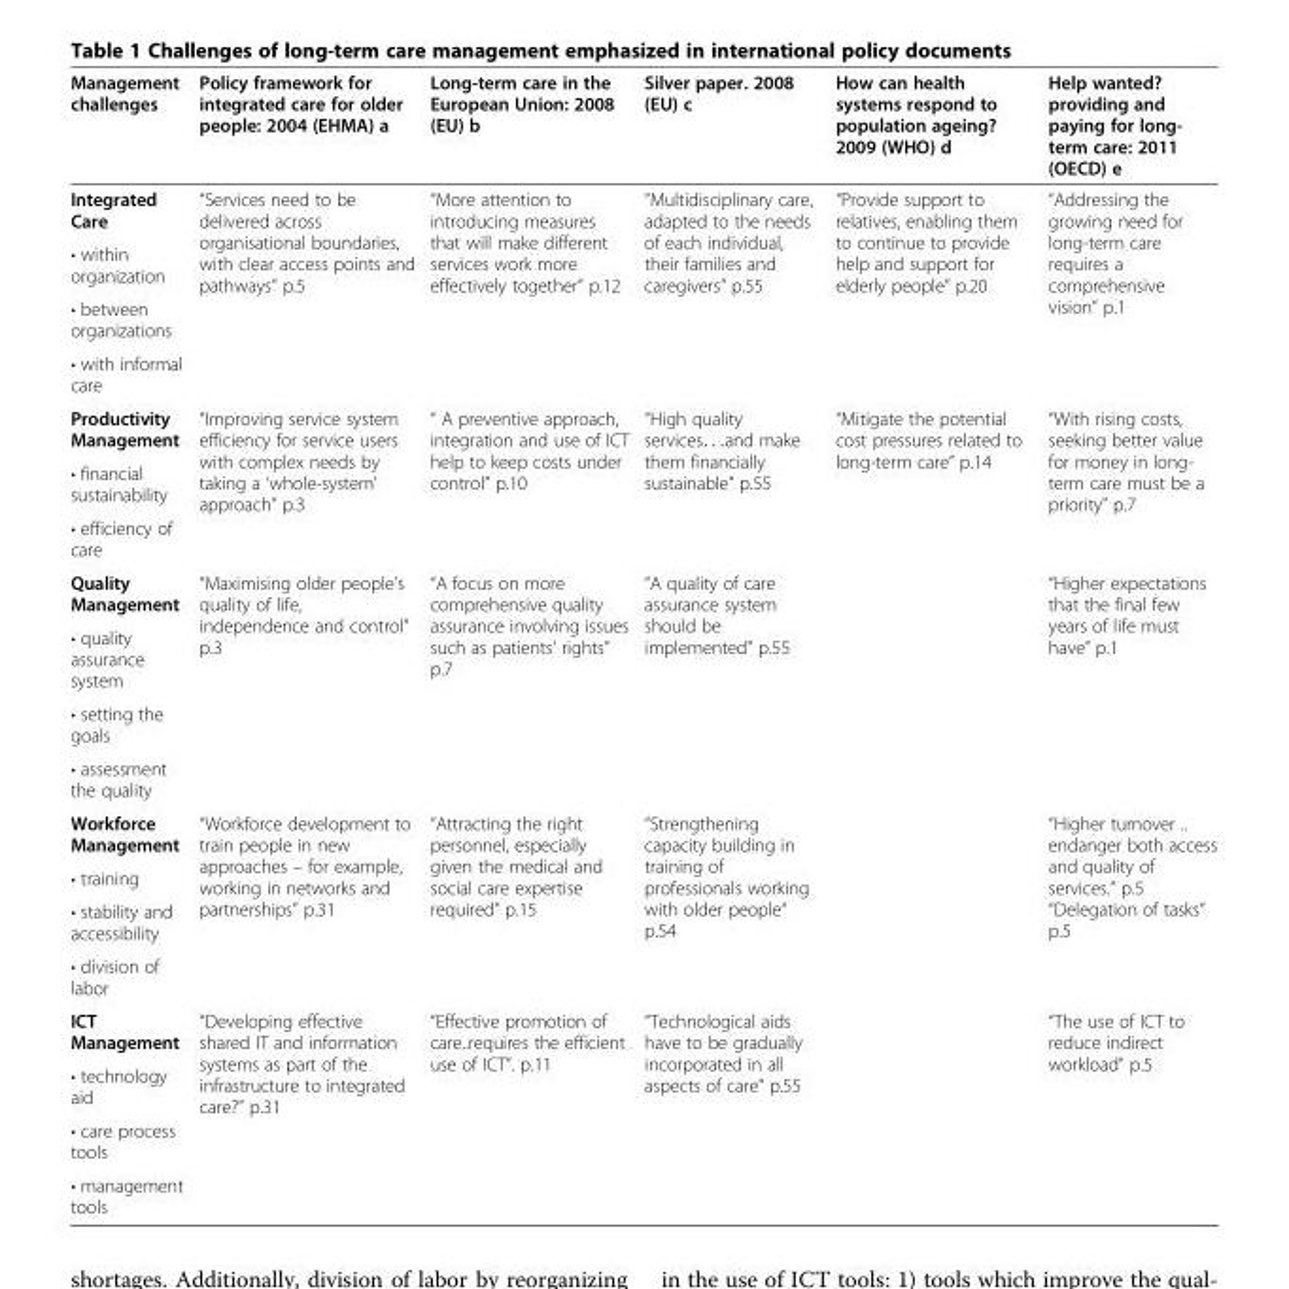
<table><thead><tr><td>Management challenges</td><td>Policy framework for integrated care for older people: 2004 (EHMA) a</td><td>Long-term care in the European Union: 2008 (EU) b</td><td>Silver paper. 2008 (EU) c</td><td>How can health systems respond to population ageing? 2009 (WHO) d</td><td>Help wanted? providing and paying for long- term care: 2011 (OECD) e</td></tr></thead><tbody><tr><td>Integrated Care</td><td rowspan="4">“Services need to be delivered across organisational boundaries, with clear access points and pathways” p.5</td><td rowspan="4">“More attention to introducing measures that will make different services work more effectively together” p.12</td><td rowspan="4">“Multidisciplinary care, adapted to the needs of each individual, their families and caregivers” p.55</td><td rowspan="4">“Provide support to relatives, enabling them to continue to provide help and support for elderly people” p.20</td><td rowspan="4">“Addressing the growing need for long-term care requires a comprehensive vision” p.1</td></tr><tr><td>• within organization</td></tr><tr><td>• between organizations</td></tr><tr><td>• with informal care</td></tr><tr><td>Productivity Management</td><td rowspan="3">“Improving service system efficiency for service users with complex needs by taking a ‘whole-system’ approach” p.3</td><td rowspan="3">“ A preventive approach, integration and use of ICT help to keep costs under control” p.10</td><td rowspan="3">“High quality services. . .and make them financially sustainable” p.55</td><td rowspan="3">“Mitigate the potential cost pressures related to long-term care” p.14</td><td rowspan="3">“With rising costs, seeking better value for money in long- term care must be a priority” p.7</td></tr><tr><td>• financial sustainability</td></tr><tr><td>• efficiency of care</td></tr><tr><td>Quality Management</td><td rowspan="4">“Maximising older people’s quality of life, independence and control” p.3</td><td rowspan="4">“A focus on more comprehensive quality assurance involving issues such as patients’ rights” p.7</td><td rowspan="4">“A quality of care assurance system should be implemented” p.55</td><td rowspan="4"></td><td rowspan="4">“Higher expectations that the final few years of life must have” p.1</td></tr><tr><td>• quality assurance system</td></tr><tr><td>• setting the goals</td></tr><tr><td>• assessment the quality</td></tr><tr><td>Workforce Management</td><td rowspan="4">“Workforce development to train people in new approaches – for example, working in networks and partnerships” p.31</td><td rowspan="4">“Attracting the right personnel, especially given the medical and social care expertise required” p.15</td><td rowspan="4">“Strengthening capacity building in training of professionals working with older people“ p.54</td><td rowspan="4"></td><td rowspan="4">“Higher turnover .. endanger both access and quality of services.” p.5 “Delegation of tasks” p.5</td></tr><tr><td>• training</td></tr><tr><td>• stability and accessibility</td></tr><tr><td>• division of labor</td></tr><tr><td>ICT Management</td><td rowspan="3">“Developing effective shared IT and information systems as part of the infrastructure to integrated care?” p.31</td><td rowspan="3">“Effective promotion of care..requires the efficient use of ICT”. p.11</td><td rowspan="3">“Technological aids have to be gradually incorporated in all aspects of care” p.55</td><td rowspan="3"></td><td rowspan="3">“The use of ICT to reduce indirect workload” p.5</td></tr><tr><td>• technology aid</td></tr><tr><td>• care process tools</td></tr><tr><td>• management tools</td><td></td><td></td><td></td><td></td><td></td></tr></tbody></table>